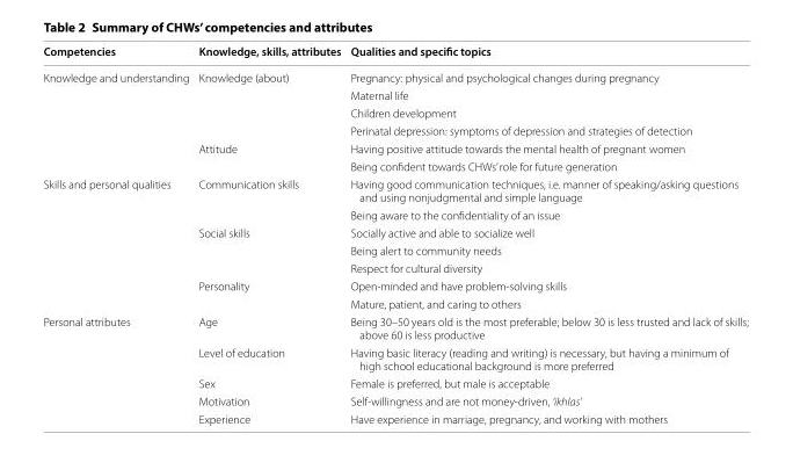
<table><thead><tr><td>Competencies</td><td>Knowledge, skills, attributes</td><td>Qualities and specific topics</td></tr></thead><tbody><tr><td rowspan="6">Knowledge and understanding</td><td>Knowledge (about)</td><td>Pregnancy: physical and psychological changes during pregnancy</td></tr><tr><td></td><td>Maternal life</td></tr><tr><td></td><td>Children development</td></tr><tr><td></td><td>Perinatal depression: symptoms of depression and strategies of detection</td></tr><tr><td>Attitude</td><td>Having positive attitude towards the mental health of pregnant women</td></tr><tr><td></td><td>Being confident towards CHWs’ role for future generation</td></tr><tr><td rowspan="7">Skills and personal qualities</td><td>Communication skills</td><td>Having good communication techniques, i.e. manner of speaking/asking questions and using nonjudgmental and simple language</td></tr><tr><td></td><td>Being aware to the confidentiality of an issue</td></tr><tr><td>Social skills</td><td>Socially active and able to socialize well</td></tr><tr><td></td><td>Being alert to community needs</td></tr><tr><td></td><td>Respect for cultural diversity</td></tr><tr><td>Personality</td><td>Open-minded and have problem-solving skills</td></tr><tr><td></td><td>Mature, patient, and caring to others</td></tr><tr><td rowspan="5">Personal attributes</td><td>Age</td><td>Being 30–50 years old is the most preferable; below 30 is less trusted and lack of skills; above 60 is less productive</td></tr><tr><td>Level of education</td><td>Having basic literacy (reading and writing) is necessary, but having a minimum of high school educational background is more preferred</td></tr><tr><td>Sex</td><td>Female is preferred, but male is acceptable</td></tr><tr><td>Motivation</td><td>Self-willingness and are not money-driven, ‘ikhlas’</td></tr><tr><td>Experience</td><td>Have experience in marriage, pregnancy, and working with mothers</td></tr></tbody></table>